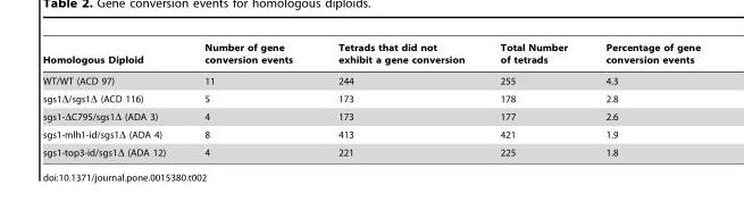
<table><thead><tr><td>Homologous Diploid</td><td>Number of gene conversion events</td><td>Tetrads that did not exhibit a gene conversion</td><td>Total Number of tetrads</td><td>Percentage of gene conversion events</td></tr></thead><tbody><tr><td>WT/WT (ACD 97)</td><td>11</td><td>244</td><td>255</td><td>4.3</td></tr><tr><td>sgs1Δ/sgs1Δ (ACD 116)</td><td>5</td><td>173</td><td>178</td><td>2.8</td></tr><tr><td>sgs1-ΔC795/sgs1Δ (ADA 3)</td><td>4</td><td>173</td><td>177</td><td>2.6</td></tr><tr><td>sgs1-mlh1-id/sgs1Δ (ADA 4)</td><td>8</td><td>413</td><td>421</td><td>1.9</td></tr><tr><td>sgs1-top3-id/sgs1Δ (ADA 12)</td><td>4</td><td>221</td><td>225</td><td>1.8</td></tr></tbody></table>